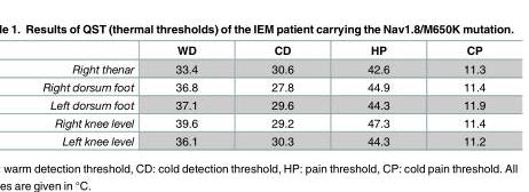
<table><thead><tr><td></td><td>WD</td><td>CD</td><td>HP</td><td>CP</td></tr></thead><tbody><tr><td>Right thenar</td><td>33.4</td><td>30.6</td><td>42.6</td><td>11.3</td></tr><tr><td>Right dorsum foot</td><td>36.8</td><td>27.8</td><td>44.9</td><td>11.4</td></tr><tr><td>Left dorsum foot</td><td>37.1</td><td>29.6</td><td>44.3</td><td>11.9</td></tr><tr><td>Right knee level</td><td>39.6</td><td>29.2</td><td>47.3</td><td>11.4</td></tr><tr><td>Left knee level</td><td>36.1</td><td>30.3</td><td>44.3</td><td>11.2</td></tr></tbody></table>